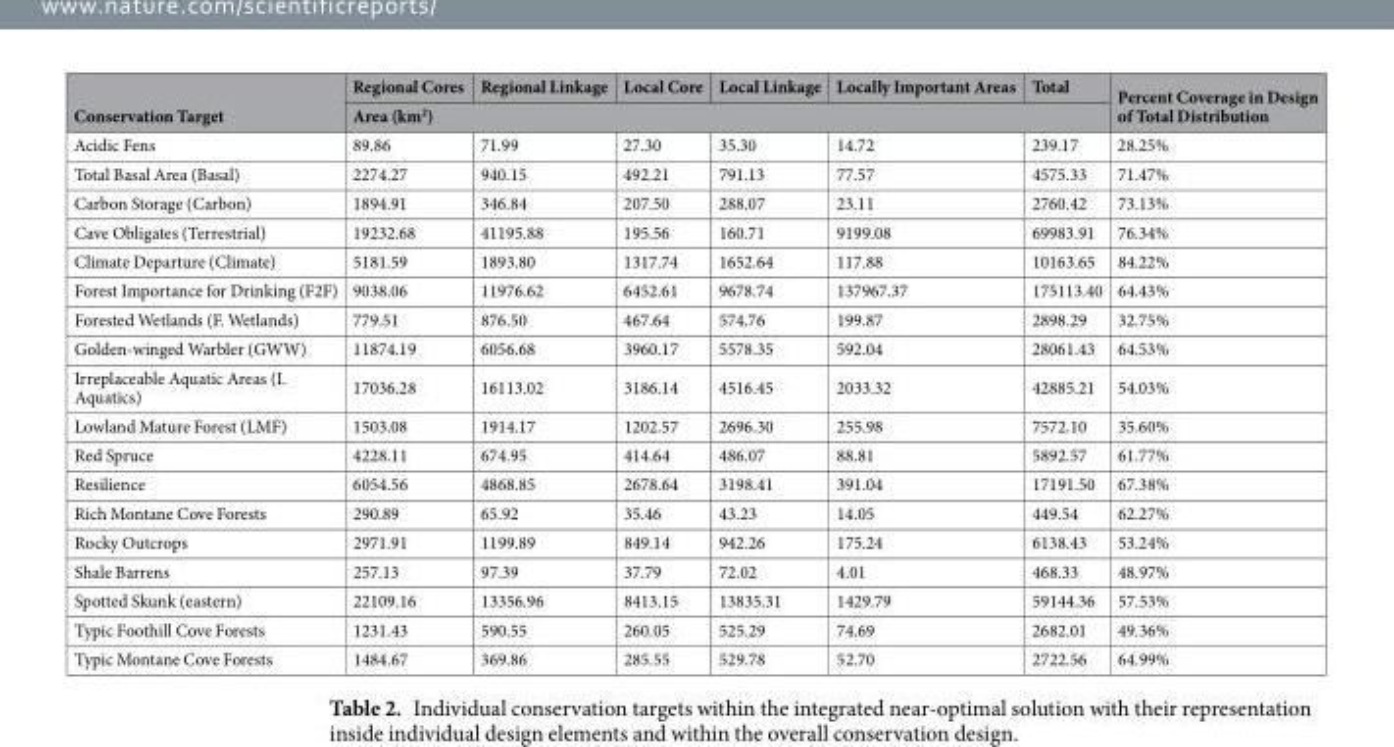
<table><thead><tr><td rowspan="2">Conservation Target</td><td>Regional Cores</td><td>Regional Linkage</td><td>Local Core</td><td>Local Linkage</td><td>Locally Important Areas</td><td>Total</td><td rowspan="2">Percent Coverage in Design of Total Distribution</td></tr><tr><td colspan="6">Area (km<sup>2</sup>)</td></tr></thead><tbody><tr><td>Acidic Fens</td><td>89.86</td><td>71.99</td><td>27.30</td><td>35.30</td><td>14.72</td><td>239.17</td><td>28.25%</td></tr><tr><td>Total Basal Area (Basal)</td><td>2274.27</td><td>940.15</td><td>492.21</td><td>791.13</td><td>77.57</td><td>4575.33</td><td>71.47%</td></tr><tr><td>Carbon Storage (Carbon)</td><td>1894.91</td><td>346.84</td><td>207.50</td><td>288.07</td><td>23.11</td><td>2760.42</td><td>73.13%</td></tr><tr><td>Cave Obligates (Terrestrial)</td><td>19232.68</td><td>41195.88</td><td>195.56</td><td>160.71</td><td>9199.08</td><td>69983.91</td><td>76.34%</td></tr><tr><td>Climate Departure (Climate)</td><td>5181.59</td><td>1893.80</td><td>1317.74</td><td>1652.64</td><td>117.88</td><td>10163.65</td><td>84.22%</td></tr><tr><td>Forest Importance for Drinking (F2F)</td><td>9038.06</td><td>11976.62</td><td>6452.61</td><td>9678.74</td><td>137967.37</td><td>175113.40</td><td>64.43%</td></tr><tr><td>Forested Wetlands (F. Wetlands)</td><td>779.51</td><td>876.50</td><td>467.64</td><td>574.76</td><td>199.87</td><td>2898.29</td><td>32.75%</td></tr><tr><td>Golden-winged Warbler (GWW)</td><td>11874.19</td><td>6056.68</td><td>3960.17</td><td>5578.35</td><td>592.04</td><td>28061.43</td><td>64.53%</td></tr><tr><td>Irreplaceable Aquatic Areas (I. Aquatics)</td><td>17036.28</td><td>16113.02</td><td>3186.14</td><td>4516.45</td><td>2033.32</td><td>42885.21</td><td>54.03%</td></tr><tr><td>Lowland Mature Forest (LMF)</td><td>1503.08</td><td>1914.17</td><td>1202.57</td><td>2696.30</td><td>255.98</td><td>7572.10</td><td>35.60%</td></tr><tr><td>Red Spruce</td><td>4228.11</td><td>674.95</td><td>414.64</td><td>486.07</td><td>88.81</td><td>5892.57</td><td>61.77%</td></tr><tr><td>Resilience</td><td>6054.56</td><td>4868.85</td><td>2678.64</td><td>3198.41</td><td>391.04</td><td>17191.50</td><td>67.38%</td></tr><tr><td>Rich Montane Cove Forests</td><td>290.89</td><td>65.92</td><td>35.46</td><td>43.23</td><td>14.05</td><td>449.54</td><td>62.27%</td></tr><tr><td>Rocky Outcrops</td><td>2971.91</td><td>1199.89</td><td>849.14</td><td>942.26</td><td>175.24</td><td>6138.43</td><td>53.24%</td></tr><tr><td>Shale Barrens</td><td>257.13</td><td>97.39</td><td>37.79</td><td>72.02</td><td>4.01</td><td>468.33</td><td>48.97%</td></tr><tr><td>Spotted Skunk (eastern)</td><td>22109.16</td><td>13356.96</td><td>8413.15</td><td>13835.31</td><td>1429.79</td><td>59144.36</td><td>57.53%</td></tr><tr><td>Typic Foothill Cove Forests</td><td>1231.43</td><td>590.55</td><td>260.05</td><td>525.29</td><td>74.69</td><td>2682.01</td><td>49.36%</td></tr><tr><td>Typic Montane Cove Forests</td><td>1484.67</td><td>369.86</td><td>285.55</td><td>529.78</td><td>52.70</td><td>2722.56</td><td>64.99%</td></tr></tbody></table>